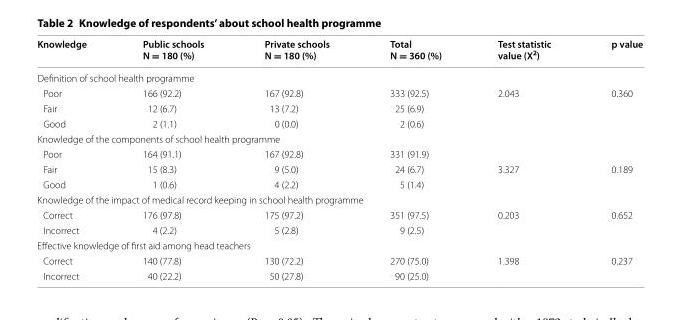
<table><thead><tr><td>Knowledge</td><td>Public schools N = 180 (%)</td><td>Private schools N = 180 (%)</td><td>Total N = 360 (%)</td><td>Test statistic value (X<sup>2</sup>)</td><td>p value</td></tr></thead><tbody><tr><td colspan="6">Definition of school health programme</td></tr><tr><td>Poor</td><td>166 (92.2)</td><td>167 (92.8)</td><td>333 (92.5)</td><td>2.043</td><td>0.360</td></tr><tr><td>Fair</td><td>12 (6.7)</td><td>13 (7.2)</td><td>25 (6.9)</td><td></td><td></td></tr><tr><td>Good</td><td>2 (1.1)</td><td>0 (0.0)</td><td>2 (0.6)</td><td></td><td></td></tr><tr><td colspan="6">Knowledge of the components of school health programme</td></tr><tr><td>Poor</td><td>164 (91.1)</td><td>167 (92.8)</td><td>331 (91.9)</td><td></td><td></td></tr><tr><td>Fair</td><td>15 (8.3)</td><td>9 (5.0)</td><td>24 (6.7)</td><td>3.327</td><td>0.189</td></tr><tr><td>Good</td><td>1 (0.6)</td><td>4 (2.2)</td><td>5 (1.4)</td><td></td><td></td></tr><tr><td colspan="6">Knowledge of the impact of medical record keeping in school health programme</td></tr><tr><td>Correct</td><td>176 (97.8)</td><td>175 (97.2)</td><td>351 (97.5)</td><td>0.203</td><td>0.652</td></tr><tr><td>Incorrect</td><td>4 (2.2)</td><td>5 (2.8)</td><td>9 (2.5)</td><td></td><td></td></tr><tr><td colspan="6">Effective knowledge of first aid among head teachers</td></tr><tr><td>Correct</td><td>140 (77.8)</td><td>130 (72.2)</td><td>270 (75.0)</td><td>1.398</td><td>0.237</td></tr><tr><td>Incorrect</td><td>40 (22.2)</td><td>50 (27.8)</td><td>90 (25.0)</td><td></td><td></td></tr></tbody></table>